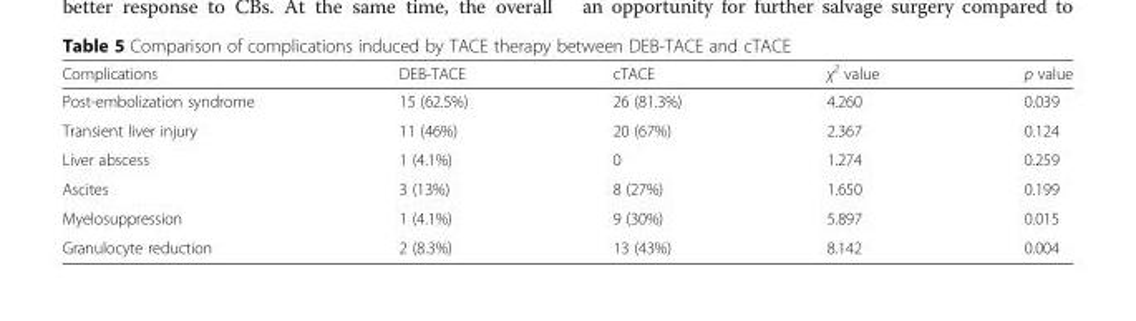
<table><thead><tr><td>Complications</td><td>DEB-TACE</td><td>cTACE</td><td>χ<sup>2</sup> value</td><td>p value</td></tr></thead><tbody><tr><td>Post-embolization syndrome</td><td>15 (62.5%)</td><td>26 (81.3%)</td><td>4.260</td><td>0.039</td></tr><tr><td>Transient liver injury</td><td>11 (46%)</td><td>20 (67%)</td><td>2.367</td><td>0.124</td></tr><tr><td>Liver abscess</td><td>1 (4.1%)</td><td>0</td><td>1.274</td><td>0.259</td></tr><tr><td>Ascites</td><td>3 (13%)</td><td>8 (27%)</td><td>1.650</td><td>0.199</td></tr><tr><td>Myelosuppression</td><td>1 (4.1%)</td><td>9 (30%)</td><td>5.897</td><td>0.015</td></tr><tr><td>Granulocyte reduction</td><td>2 (8.3%)</td><td>13 (43%)</td><td>8.142</td><td>0.004</td></tr></tbody></table>